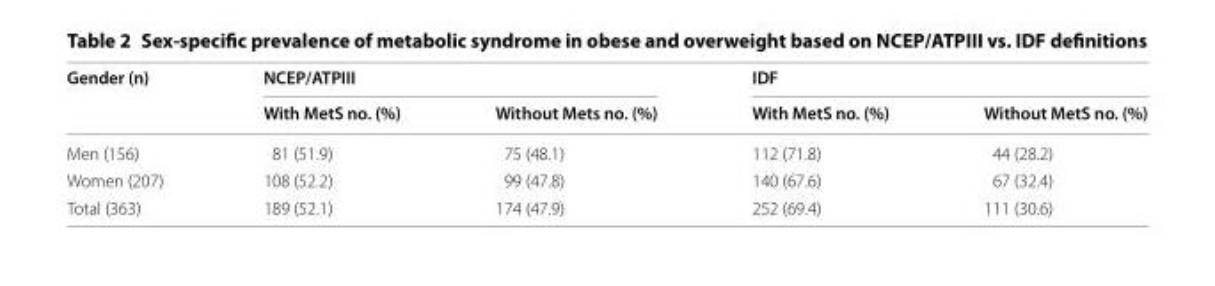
<table><thead><tr><td rowspan="2">Gender (n)</td><td colspan="2">NCEP/ATPIII</td><td colspan="2">IDF</td></tr><tr><td>With MetS no. (%)</td><td>Without Mets no. (%)</td><td>With MetS no. (%)</td><td>Without MetS no. (%)</td></tr></thead><tbody><tr><td>Men (156)</td><td>81 (51.9)</td><td>75 (48.1)</td><td>112 (71.8)</td><td>44 (28.2)</td></tr><tr><td>Women (207)</td><td>108 (52.2)</td><td>99 (47.8)</td><td>140 (67.6)</td><td>67 (32.4)</td></tr><tr><td>Total (363)</td><td>189 (52.1)</td><td>174 (47.9)</td><td>252 (69.4)</td><td>111 (30.6)</td></tr></tbody></table>